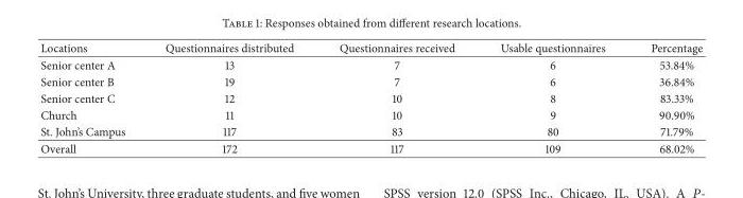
<table><thead><tr><td>Locations</td><td>Questionnaires distributed</td><td>Questionnaires received</td><td>Usable questionnaires</td><td>Percentage</td></tr></thead><tbody><tr><td>Senior center A</td><td>13</td><td>7</td><td>6</td><td>53.84%</td></tr><tr><td>Senior center B</td><td>19</td><td>7</td><td>6</td><td>36.84%</td></tr><tr><td>Senior center C</td><td>12</td><td>10</td><td>8</td><td>83.33%</td></tr><tr><td>Church</td><td>11</td><td>10</td><td>9</td><td>90.90%</td></tr><tr><td>St. John’s Campus</td><td>117</td><td>83</td><td>80</td><td>71.79%</td></tr><tr><td>Overall</td><td>172</td><td>117</td><td>109</td><td>68.02%</td></tr></tbody></table>